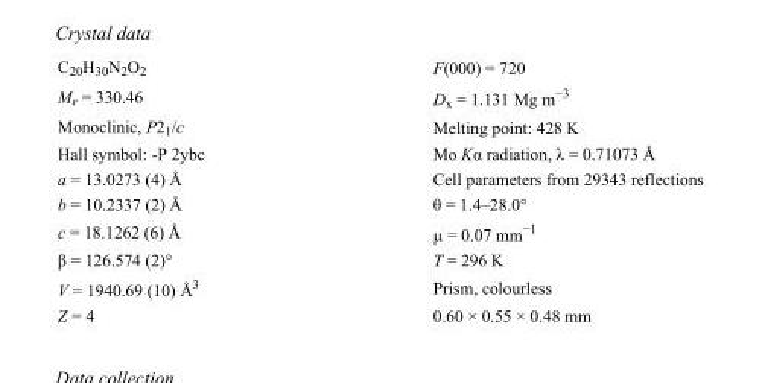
<table><tbody><tr><td>C<sub>20</sub>H<sub>30</sub>N<sub>2</sub>O<sub>2</sub></td><td>F(000) = 720</td></tr><tr><td>M<sub>r</sub> = 330.46</td><td>D<sub>x</sub> = 1.131 Mg m<sup>−3</sup></td></tr><tr><td>Monoclinic, P2<sub>1</sub>/c</td><td>Melting point: 428 K</td></tr><tr><td>Hall symbol: -P 2ybc</td><td>Mo Kα radiation, λ = 0.71073 Å</td></tr><tr><td>a = 13.0273 (4) Å</td><td>Cell parameters from 29343 reflections</td></tr><tr><td>b = 10.2337 (2) Å</td><td>θ = 1.4–28.0°</td></tr><tr><td>c = 18.1262 (6) Å</td><td>µ = 0.07 mm<sup>−1</sup></td></tr><tr><td>β = 126.574 (2)°</td><td>T = 296 K</td></tr><tr><td>V = 1940.69 (10) Å<sup>3</sup></td><td>Prism, colourless</td></tr><tr><td>Z = 4</td><td>0.60 × 0.55 × 0.48 mm</td></tr></tbody></table>